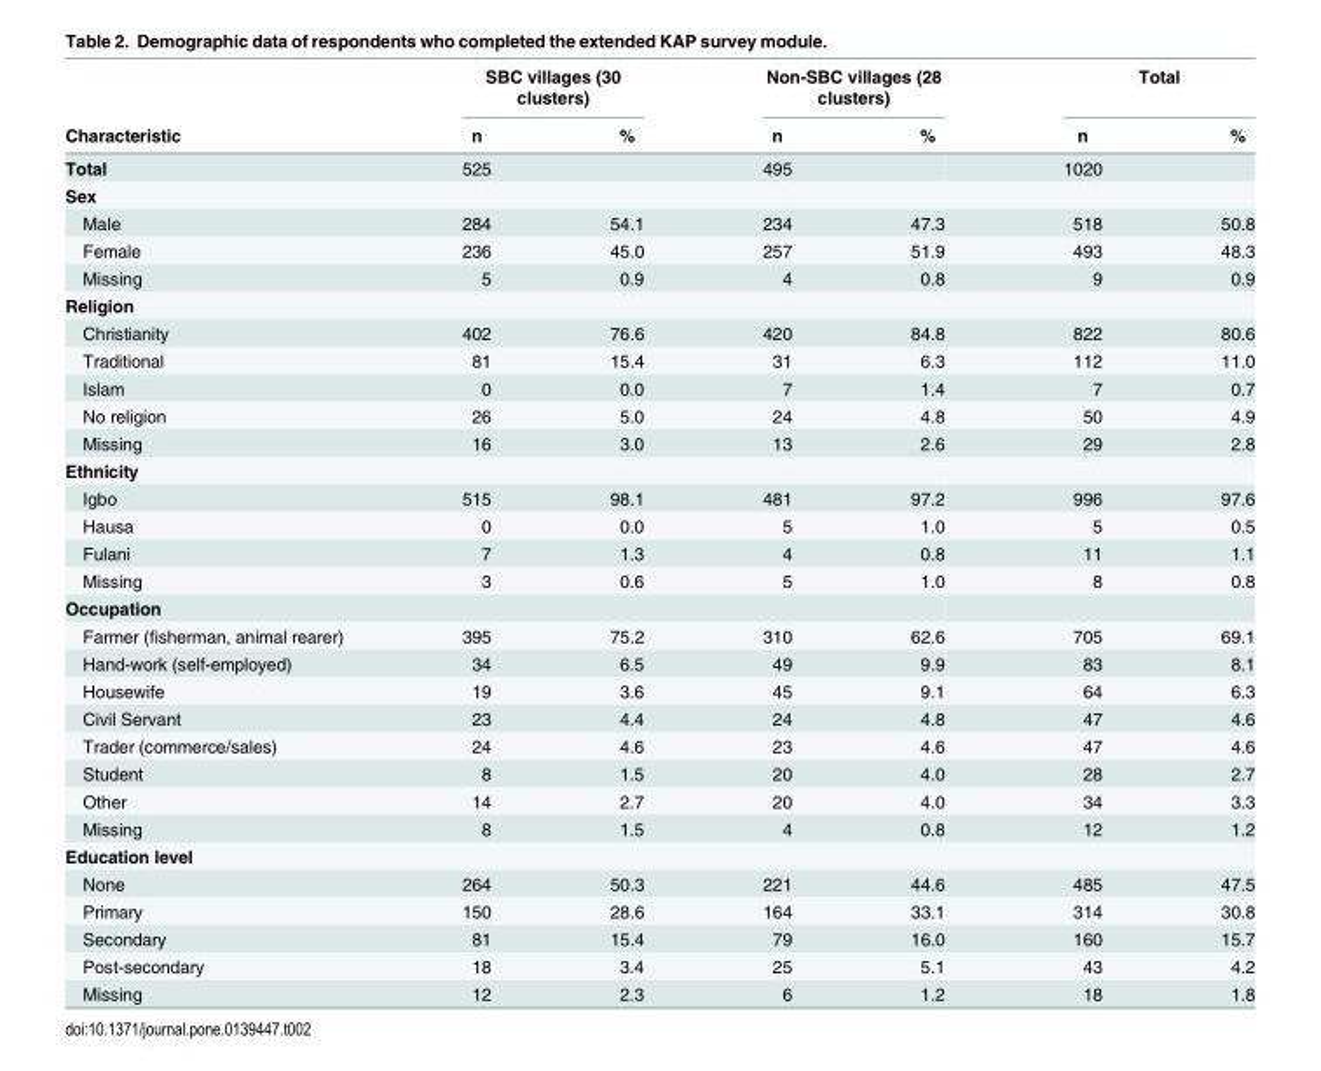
<table><thead><tr><td rowspan="2">Characteristic</td><td colspan="2">SBC villages (30 clusters)</td><td colspan="2">Non-SBC villages (28 clusters)</td><td colspan="2">Total</td></tr><tr><td>n</td><td>%</td><td>n</td><td>%</td><td>n</td><td>%</td></tr></thead><tbody><tr><td>Total</td><td>525</td><td></td><td>495</td><td></td><td>1020</td><td></td></tr><tr><td colspan="7">Sex</td></tr><tr><td>Male</td><td>284</td><td>54.1</td><td>234</td><td>47.3</td><td>518</td><td>50.8</td></tr><tr><td>Female</td><td>236</td><td>45.0</td><td>257</td><td>51.9</td><td>493</td><td>48.3</td></tr><tr><td>Missing</td><td>5</td><td>0.9</td><td>4</td><td>0.8</td><td>9</td><td>0.9</td></tr><tr><td colspan="7">Religion</td></tr><tr><td>Christianity</td><td>402</td><td>76.6</td><td>420</td><td>84.8</td><td>822</td><td>80.6</td></tr><tr><td>Traditional</td><td>81</td><td>15.4</td><td>31</td><td>6.3</td><td>112</td><td>11.0</td></tr><tr><td>Islam</td><td>0</td><td>0.0</td><td>7</td><td>1.4</td><td>7</td><td>0.7</td></tr><tr><td>No religion</td><td>26</td><td>5.0</td><td>24</td><td>4.8</td><td>50</td><td>4.9</td></tr><tr><td>Missing</td><td>16</td><td>3.0</td><td>13</td><td>2.6</td><td>29</td><td>2.8</td></tr><tr><td colspan="7">Ethnicity</td></tr><tr><td>Igbo</td><td>515</td><td>98.1</td><td>481</td><td>97.2</td><td>996</td><td>97.6</td></tr><tr><td>Hausa</td><td>0</td><td>0.0</td><td>5</td><td>1.0</td><td>5</td><td>0.5</td></tr><tr><td>Fulani</td><td>7</td><td>1.3</td><td>4</td><td>0.8</td><td>11</td><td>1.1</td></tr><tr><td>Missing</td><td>3</td><td>0.6</td><td>5</td><td>1.0</td><td>8</td><td>0.8</td></tr><tr><td colspan="7">Occupation</td></tr><tr><td>Farmer (fisherman, animal rearer)</td><td>395</td><td>75.2</td><td>310</td><td>62.6</td><td>705</td><td>69.1</td></tr><tr><td>Hand-work (self-employed)</td><td>34</td><td>6.5</td><td>49</td><td>9.9</td><td>83</td><td>8.1</td></tr><tr><td>Housewife</td><td>19</td><td>3.6</td><td>45</td><td>9.1</td><td>64</td><td>6.3</td></tr><tr><td>Civil Servant</td><td>23</td><td>4.4</td><td>24</td><td>4.8</td><td>47</td><td>4.6</td></tr><tr><td>Trader (commerce/sales)</td><td>24</td><td>4.6</td><td>23</td><td>4.6</td><td>47</td><td>4.6</td></tr><tr><td>Student</td><td>8</td><td>1.5</td><td>20</td><td>4.0</td><td>28</td><td>2.7</td></tr><tr><td>Other</td><td>14</td><td>2.7</td><td>20</td><td>4.0</td><td>34</td><td>3.3</td></tr><tr><td>Missing</td><td>8</td><td>1.5</td><td>4</td><td>0.8</td><td>12</td><td>1.2</td></tr><tr><td colspan="7">Education level</td></tr><tr><td>None</td><td>264</td><td>50.3</td><td>221</td><td>44.6</td><td>485</td><td>47.5</td></tr><tr><td>Primary</td><td>150</td><td>28.6</td><td>164</td><td>33.1</td><td>314</td><td>30.8</td></tr><tr><td>Secondary</td><td>81</td><td>15.4</td><td>79</td><td>16.0</td><td>160</td><td>15.7</td></tr><tr><td>Post-secondary</td><td>18</td><td>3.4</td><td>25</td><td>5.1</td><td>43</td><td>4.2</td></tr><tr><td>Missing</td><td>12</td><td>2.3</td><td>6</td><td>1.2</td><td>18</td><td>1.8</td></tr></tbody></table>